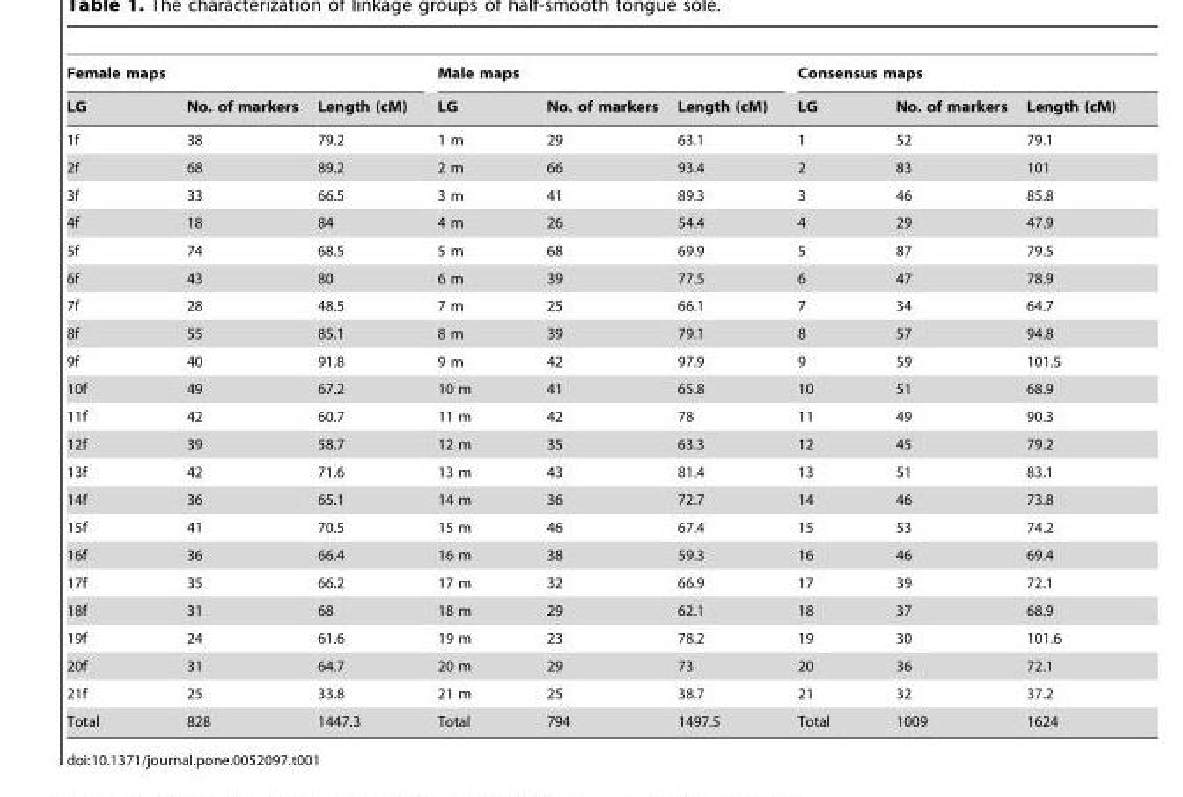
<table><thead><tr><td colspan="3">Female maps</td><td colspan="3">Male maps</td><td colspan="3">Consensus maps</td></tr><tr><td>LG</td><td>No. of markers</td><td>Length (cM)</td><td>LG</td><td>No. of markers</td><td>Length (cM)</td><td>LG</td><td>No. of markers</td><td>Length (cM)</td></tr></thead><tbody><tr><td>1f</td><td>38</td><td>79.2</td><td>1 m</td><td>29</td><td>63.1</td><td>1</td><td>52</td><td>79.1</td></tr><tr><td>2f</td><td>68</td><td>89.2</td><td>2 m</td><td>66</td><td>93.4</td><td>2</td><td>83</td><td>101</td></tr><tr><td>3f</td><td>33</td><td>66.5</td><td>3 m</td><td>41</td><td>89.3</td><td>3</td><td>46</td><td>85.8</td></tr><tr><td>4f</td><td>18</td><td>84</td><td>4 m</td><td>26</td><td>54.4</td><td>4</td><td>29</td><td>47.9</td></tr><tr><td>5f</td><td>74</td><td>68.5</td><td>5 m</td><td>68</td><td>69.9</td><td>5</td><td>87</td><td>79.5</td></tr><tr><td>6f</td><td>43</td><td>80</td><td>6 m</td><td>39</td><td>77.5</td><td>6</td><td>47</td><td>78.9</td></tr><tr><td>7f</td><td>28</td><td>48.5</td><td>7 m</td><td>25</td><td>66.1</td><td>7</td><td>34</td><td>64.7</td></tr><tr><td>8f</td><td>55</td><td>85.1</td><td>8 m</td><td>39</td><td>79.1</td><td>8</td><td>57</td><td>94.8</td></tr><tr><td>9f</td><td>40</td><td>91.8</td><td>9 m</td><td>42</td><td>97.9</td><td>9</td><td>59</td><td>101.5</td></tr><tr><td>10f</td><td>49</td><td>67.2</td><td>10 m</td><td>41</td><td>65.8</td><td>10</td><td>51</td><td>68.9</td></tr><tr><td>11f</td><td>42</td><td>60.7</td><td>11 m</td><td>42</td><td>78</td><td>11</td><td>49</td><td>90.3</td></tr><tr><td>12f</td><td>39</td><td>58.7</td><td>12 m</td><td>35</td><td>63.3</td><td>12</td><td>45</td><td>79.2</td></tr><tr><td>13f</td><td>42</td><td>71.6</td><td>13 m</td><td>43</td><td>81.4</td><td>13</td><td>51</td><td>83.1</td></tr><tr><td>14f</td><td>36</td><td>65.1</td><td>14 m</td><td>36</td><td>72.7</td><td>14</td><td>46</td><td>73.8</td></tr><tr><td>15f</td><td>41</td><td>70.5</td><td>15 m</td><td>46</td><td>67.4</td><td>15</td><td>53</td><td>74.2</td></tr><tr><td>16f</td><td>36</td><td>66.4</td><td>16 m</td><td>38</td><td>59.3</td><td>16</td><td>46</td><td>69.4</td></tr><tr><td>17f</td><td>35</td><td>66.2</td><td>17 m</td><td>32</td><td>66.9</td><td>17</td><td>39</td><td>72.1</td></tr><tr><td>18f</td><td>31</td><td>68</td><td>18 m</td><td>29</td><td>62.1</td><td>18</td><td>37</td><td>68.9</td></tr><tr><td>19f</td><td>24</td><td>61.6</td><td>19 m</td><td>23</td><td>78.2</td><td>19</td><td>30</td><td>101.6</td></tr><tr><td>20f</td><td>31</td><td>64.7</td><td>20 m</td><td>29</td><td>73</td><td>20</td><td>36</td><td>72.1</td></tr><tr><td>21f</td><td>25</td><td>33.8</td><td>21 m</td><td>25</td><td>38.7</td><td>21</td><td>32</td><td>37.2</td></tr><tr><td>Total</td><td>828</td><td>1447.3</td><td>Total</td><td>794</td><td>1497.5</td><td>Total</td><td>1009</td><td>1624</td></tr></tbody></table>